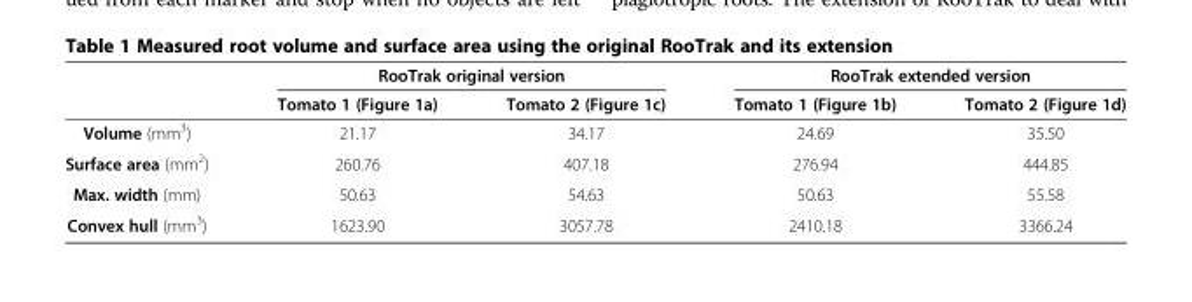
<table><thead><tr><td rowspan="2"></td><td colspan="2">RooTrak original version</td><td colspan="2">RooTrak extended version</td></tr><tr><td>Tomato 1 (Figure 1a)</td><td>Tomato 2 (Figure 1c)</td><td>Tomato 1 (Figure 1b)</td><td>Tomato 2 (Figure 1d)</td></tr></thead><tbody><tr><td>Volume (mm<sup>3</sup>)</td><td>21.17</td><td>34.17</td><td>24.69</td><td>35.50</td></tr><tr><td>Surface area (mm<sup>2</sup>)</td><td>260.76</td><td>407.18</td><td>276.94</td><td>444.85</td></tr><tr><td>Max. width (mm)</td><td>50.63</td><td>54.63</td><td>50.63</td><td>55.58</td></tr><tr><td>Convex hull (mm<sup>3</sup>)</td><td>1623.90</td><td>3057.78</td><td>2410.18</td><td>3366.24</td></tr></tbody></table>